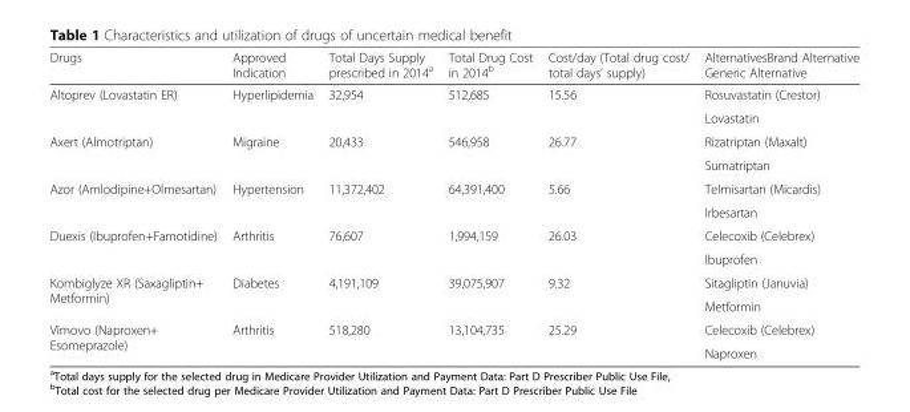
<table><thead><tr><td>Drugs</td><td>Approved Indication</td><td>Total Days Supply prescribed in 2014<sup>a</sup></td><td>Total Drug Cost in 2014<sup>b</sup></td><td>Cost/day (Total drug cost/ total days’ supply)</td><td>AlternativesBrand Alternative Generic Alternative</td></tr></thead><tbody><tr><td rowspan="2">Altoprev (Lovastatin ER)</td><td rowspan="2">Hyperlipidemia</td><td rowspan="2">32,954</td><td rowspan="2">512,685</td><td rowspan="2">15.56</td><td>Rosuvastatin (Crestor)</td></tr><tr><td>Lovastatin</td></tr><tr><td rowspan="2">Axert (Almotriptan)</td><td rowspan="2">Migraine</td><td rowspan="2">20,433</td><td rowspan="2">546,958</td><td rowspan="2">26.77</td><td>Rizatriptan (Maxalt)</td></tr><tr><td>Sumatriptan</td></tr><tr><td rowspan="2">Azor (Amlodipine+Olmesartan)</td><td rowspan="2">Hypertension</td><td rowspan="2">11,372,402</td><td rowspan="2">64,391,400</td><td rowspan="2">5.66</td><td>Telmisartan (Micardis)</td></tr><tr><td>Irbesartan</td></tr><tr><td rowspan="2">Duexis (Ibuprofen+Famotidine)</td><td rowspan="2">Arthritis</td><td rowspan="2">76,607</td><td rowspan="2">1,994,159</td><td rowspan="2">26.03</td><td>Celecoxib (Celebrex)</td></tr><tr><td>Ibuprofen</td></tr><tr><td rowspan="2">Kombiglyze XR (Saxagliptin+ Metformin)</td><td rowspan="2">Diabetes</td><td rowspan="2">4,191,109</td><td rowspan="2">39,075,907</td><td rowspan="2">9.32</td><td>Sitagliptin (Januvia)</td></tr><tr><td>Metformin</td></tr><tr><td rowspan="2">Vimovo (Naproxen+ Esomeprazole)</td><td rowspan="2">Arthritis</td><td rowspan="2">518,280</td><td rowspan="2">13,104,735</td><td rowspan="2">25.29</td><td>Celecoxib (Celebrex)</td></tr><tr><td>Naproxen</td></tr></tbody></table>